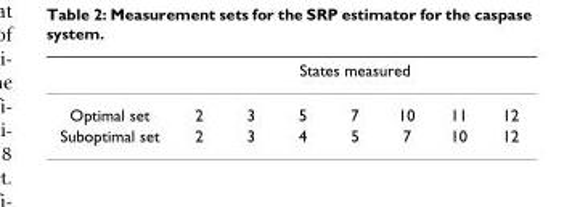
<table><thead><tr><td rowspan="2">Optimal set</td><td colspan="7">States measured</td></tr><tr><td>2</td><td>3</td><td>5</td><td>7</td><td>10</td><td>11</td><td>12</td></tr></thead><tbody><tr><td>Suboptimal set</td><td>2</td><td>3</td><td>4</td><td>5</td><td>7</td><td>10</td><td>12</td></tr></tbody></table>